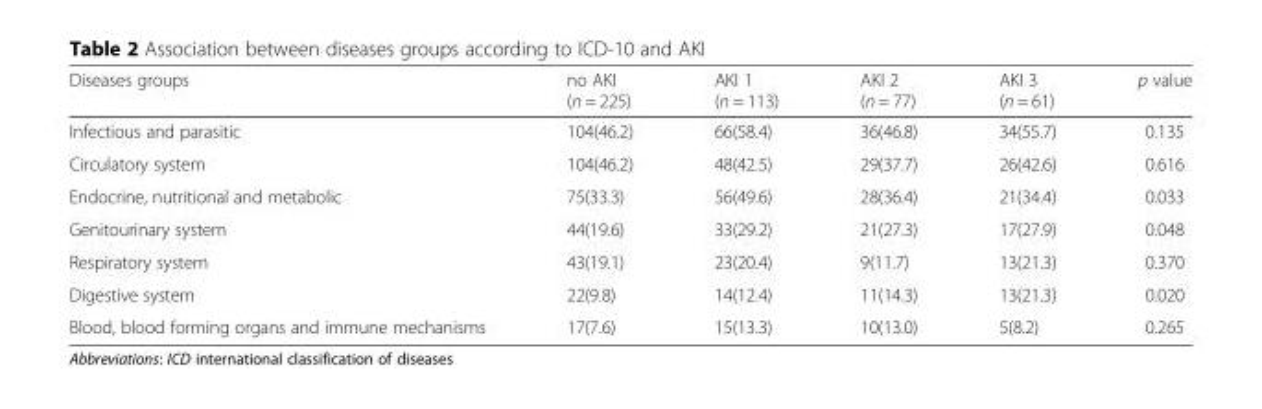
<table><thead><tr><td>Diseases groups</td><td>no AKI (n = 225)</td><td>AKI 1 (n = 113)</td><td>AKI 2 (n = 77)</td><td>AKI 3 (n = 61)</td><td>p value</td></tr></thead><tbody><tr><td>Infectious and parasitic</td><td>104(46.2)</td><td>66(58.4)</td><td>36(46.8)</td><td>34(55.7)</td><td>0.135</td></tr><tr><td>Circulatory system</td><td>104(46.2)</td><td>48(42.5)</td><td>29(37.7)</td><td>26(42.6)</td><td>0.616</td></tr><tr><td>Endocrine, nutritional and metabolic</td><td>75(33.3)</td><td>56(49.6)</td><td>28(36.4)</td><td>21(34.4)</td><td>0.033</td></tr><tr><td>Genitourinary system</td><td>44(19.6)</td><td>33(29.2)</td><td>21(27.3)</td><td>17(27.9)</td><td>0.048</td></tr><tr><td>Respiratory system</td><td>43(19.1)</td><td>23(20.4)</td><td>9(11.7)</td><td>13(21.3)</td><td>0.370</td></tr><tr><td>Digestive system</td><td>22(9.8)</td><td>14(12.4)</td><td>11(14.3)</td><td>13(21.3)</td><td>0.020</td></tr><tr><td>Blood, blood forming organs and immune mechanisms</td><td>17(7.6)</td><td>15(13.3)</td><td>10(13.0)</td><td>5(8.2)</td><td>0.265</td></tr></tbody></table>